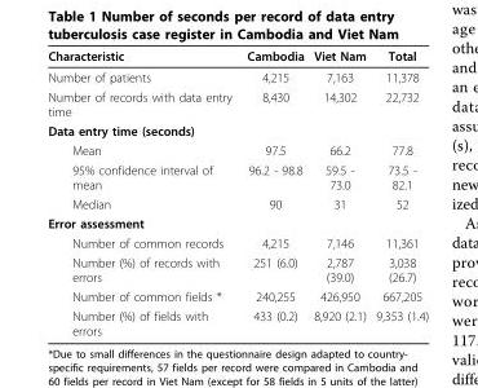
<table><thead><tr><td>Characteristic</td><td>Cambodia</td><td>Viet Nam</td><td>Total</td></tr></thead><tbody><tr><td>Number of patients</td><td>4,215</td><td>7,163</td><td>11,378</td></tr><tr><td>Number of records with data entry time</td><td>8,430</td><td>14,302</td><td>22,732</td></tr><tr><td colspan="4">Data entry time (seconds)</td></tr><tr><td>Mean</td><td>97.5</td><td>66.2</td><td>77.8</td></tr><tr><td>95% confidence interval of mean</td><td>96.2 - 98.8</td><td>59.5 - 73.0</td><td>73.5 - 82.1</td></tr><tr><td>Median</td><td>90</td><td>31</td><td>52</td></tr><tr><td colspan="4">Error assessment</td></tr><tr><td>Number of common records</td><td>4,215</td><td>7,146</td><td>11,361</td></tr><tr><td>Number (%) of records with errors</td><td>251 (6.0)</td><td>2,787 (39.0)</td><td>3,038 (26.7)</td></tr><tr><td>Number of common fields *</td><td>240,255</td><td>426,950</td><td>667,205</td></tr><tr><td>Number (%) of fields with errors</td><td>433 (0.2)</td><td>8,920 (2.1)</td><td>9,353 (1.4)</td></tr></tbody></table>